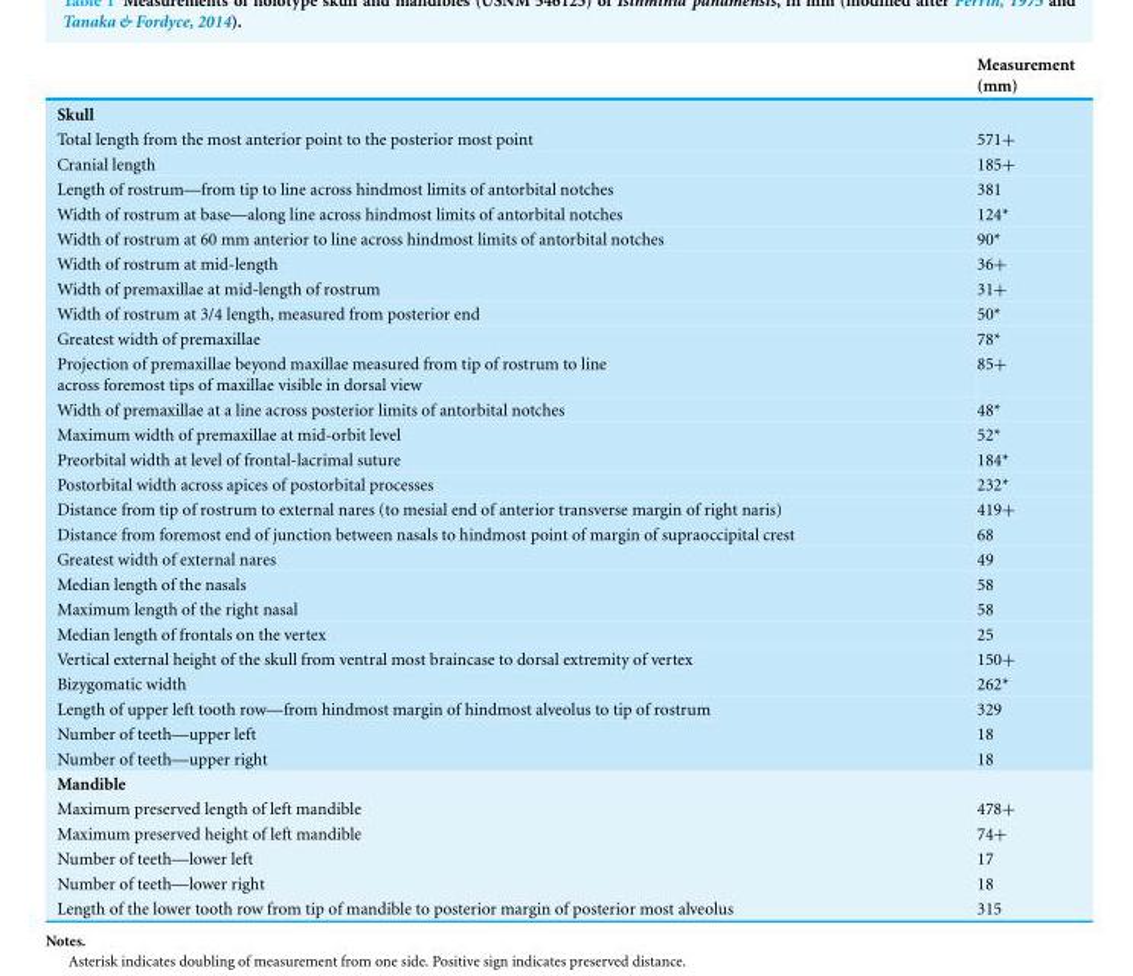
<table><thead><tr><td></td><td>Measurement (mm)</td></tr></thead><tbody><tr><td colspan="2">Skull</td></tr><tr><td>Total length from the most anterior point to the posterior most point</td><td>571+</td></tr><tr><td>Cranial length</td><td>185+</td></tr><tr><td>Length of rostrum—from tip to line across hindmost limits of antorbital notches</td><td>381</td></tr><tr><td>Width of rostrum at base—along line across hindmost limits of antorbital notches</td><td>124*</td></tr><tr><td>Width of rostrum at 60 mm anterior to line across hindmost limits of antorbital notches</td><td>90*</td></tr><tr><td>Width of rostrum at mid-length</td><td>36+</td></tr><tr><td>Width of premaxillae at mid-length of rostrum</td><td>31+</td></tr><tr><td>Width of rostrum at 3/4 length, measured from posterior end</td><td>50*</td></tr><tr><td>Greatest width of premaxillae</td><td>78*</td></tr><tr><td>Projection of premaxillae beyond maxillae measured from tip of rostrum to line across foremost tips of maxillae visible in dorsal view</td><td>85+</td></tr><tr><td>Width of premaxillae at a line across posterior limits of antorbital notches</td><td>48*</td></tr><tr><td>Maximum width of premaxillae at mid-orbit level</td><td>52*</td></tr><tr><td>Preorbital width at level of frontal-lacrimal suture</td><td>184*</td></tr><tr><td>Postorbital width across apices of postorbital processes</td><td>232*</td></tr><tr><td>Distance from tip of rostrum to external nares (to mesial end of anterior transverse margin of right naris)</td><td>419+</td></tr><tr><td>Distance from foremost end of junction between nasals to hindmost point of margin of supraoccipital crest</td><td>68</td></tr><tr><td>Greatest width of external nares</td><td>49</td></tr><tr><td>Median length of the nasals</td><td>58</td></tr><tr><td>Maximum length of the right nasal</td><td>58</td></tr><tr><td>Median length of frontals on the vertex</td><td>25</td></tr><tr><td>Vertical external height of the skull from ventral most braincase to dorsal extremity of vertex</td><td>150+</td></tr><tr><td>Bizygomatic width</td><td>262*</td></tr><tr><td>Length of upper left tooth row—from hindmost margin of hindmost alveolus to tip of rostrum</td><td>329</td></tr><tr><td>Number of teeth—upper left</td><td>18</td></tr><tr><td>Number of teeth—upper right</td><td>18</td></tr><tr><td colspan="2">Mandible</td></tr><tr><td>Maximum preserved length of left mandible</td><td>478+</td></tr><tr><td>Maximum preserved height of left mandible</td><td>74+</td></tr><tr><td>Number of teeth—lower left</td><td>17</td></tr><tr><td>Number of teeth—lower right</td><td>18</td></tr><tr><td>Length of the lower tooth row from tip of mandible to posterior margin of posterior most alveolus</td><td>315</td></tr></tbody></table>